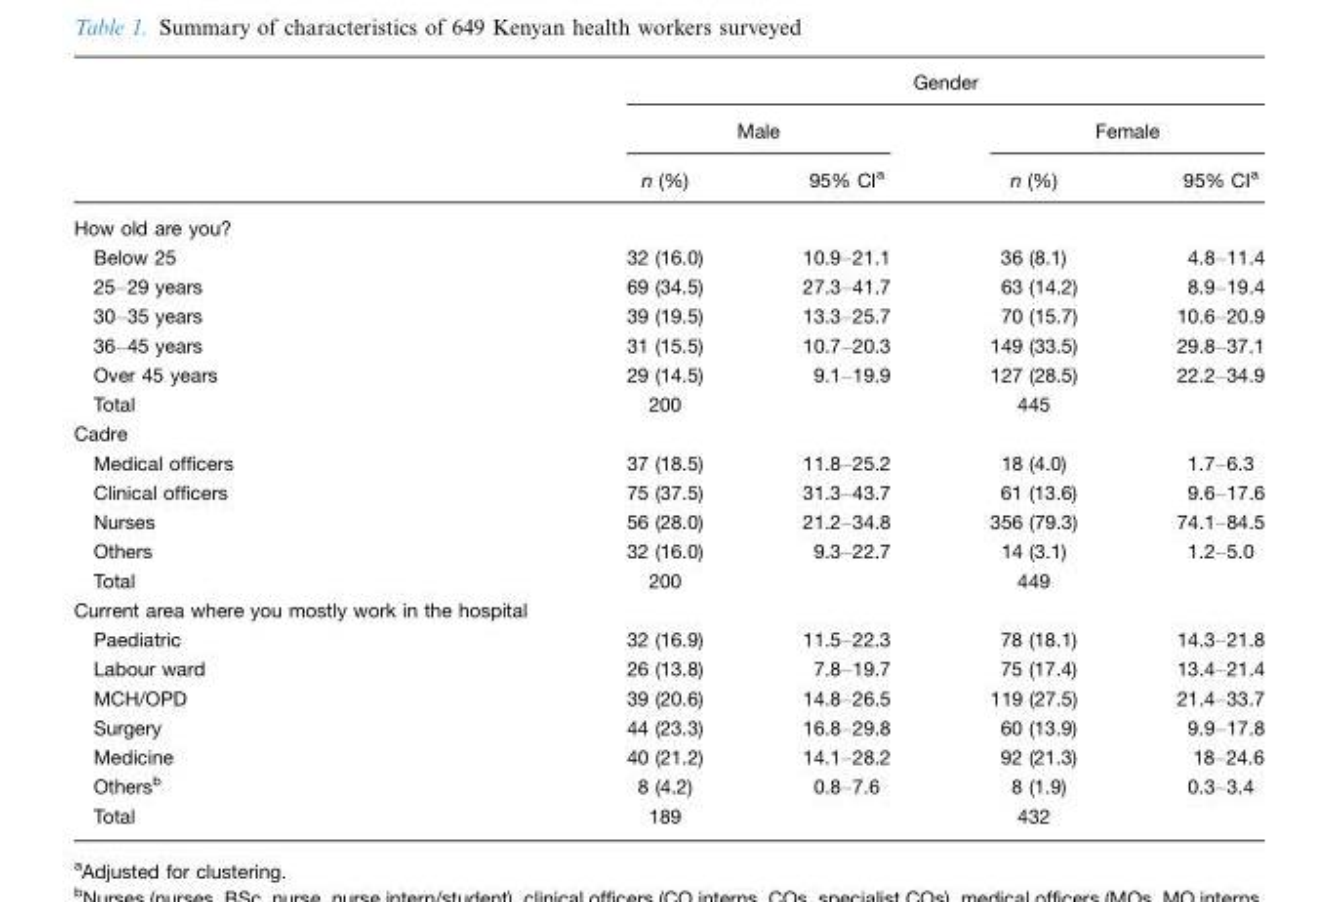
<table><thead><tr><td rowspan="3"></td><td colspan="4">Gender</td></tr><tr><td colspan="2">Male</td><td colspan="2">Female</td></tr><tr><td>n (%)</td><td>95% CI<sup>a</sup></td><td>n (%)</td><td>95% CI<sup>a</sup></td></tr></thead><tbody><tr><td colspan="5">How old are you?</td></tr><tr><td>Below 25</td><td>32 (16.0)</td><td>10.9–21.1</td><td>36 (8.1)</td><td>4.8–11.4</td></tr><tr><td>25–29 years</td><td>69 (34.5)</td><td>27.3–41.7</td><td>63 (14.2)</td><td>8.9–19.4</td></tr><tr><td>30–35 years</td><td>39 (19.5)</td><td>13.3–25.7</td><td>70 (15.7)</td><td>10.6–20.9</td></tr><tr><td>36–45 years</td><td>31 (15.5)</td><td>10.7–20.3</td><td>149 (33.5)</td><td>29.8–37.1</td></tr><tr><td>Over 45 years</td><td>29 (14.5)</td><td>9.1–19.9</td><td>127 (28.5)</td><td>22.2–34.9</td></tr><tr><td>Total</td><td>200</td><td></td><td>445</td><td></td></tr><tr><td colspan="5">Cadre</td></tr><tr><td>Medical officers</td><td>37 (18.5)</td><td>11.8–25.2</td><td>18 (4.0)</td><td>1.7–6.3</td></tr><tr><td>Clinical officers</td><td>75 (37.5)</td><td>31.3–43.7</td><td>61 (13.6)</td><td>9.6–17.6</td></tr><tr><td>Nurses</td><td>56 (28.0)</td><td>21.2–34.8</td><td>356 (79.3)</td><td>74.1–84.5</td></tr><tr><td>Others</td><td>32 (16.0)</td><td>9.3–22.7</td><td>14 (3.1)</td><td>1.2–5.0</td></tr><tr><td>Total</td><td>200</td><td></td><td>449</td><td></td></tr><tr><td colspan="5">Current area where you mostly work in the hospital</td></tr><tr><td>Paediatric</td><td>32 (16.9)</td><td>11.5–22.3</td><td>78 (18.1)</td><td>14.3–21.8</td></tr><tr><td>Labour ward</td><td>26 (13.8)</td><td>7.8–19.7</td><td>75 (17.4)</td><td>13.4–21.4</td></tr><tr><td>MCH/OPD</td><td>39 (20.6)</td><td>14.8–26.5</td><td>119 (27.5)</td><td>21.4–33.7</td></tr><tr><td>Surgery</td><td>44 (23.3)</td><td>16.8–29.8</td><td>60 (13.9)</td><td>9.9–17.8</td></tr><tr><td>Medicine</td><td>40 (21.2)</td><td>14.1–28.2</td><td>92 (21.3)</td><td>18–24.6</td></tr><tr><td>Others<sup>b</sup></td><td>8 (4.2)</td><td>0.8–7.6</td><td>8 (1.9)</td><td>0.3–3.4</td></tr><tr><td>Total</td><td>189</td><td></td><td>432</td><td></td></tr></tbody></table>